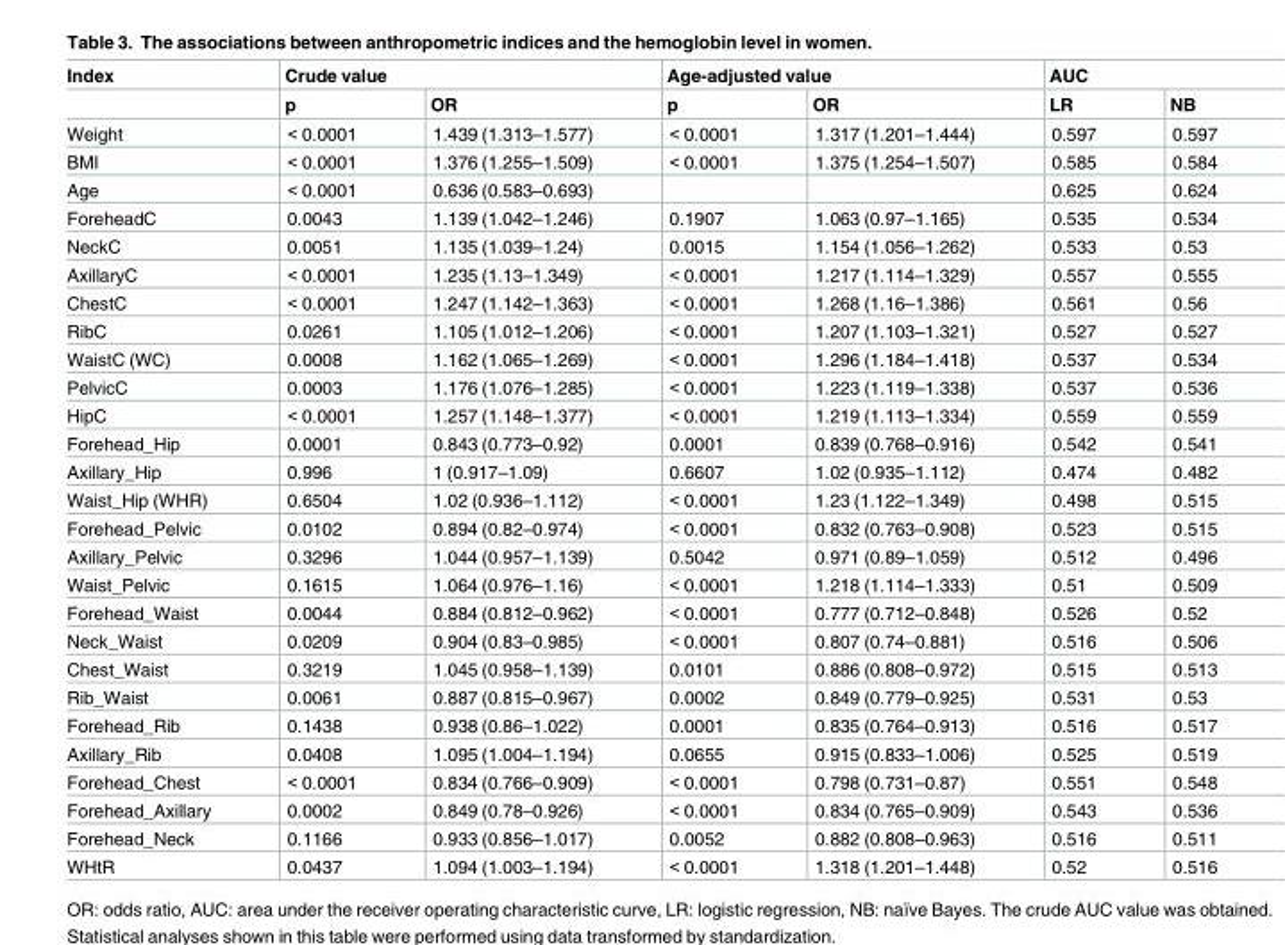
<table><thead><tr><td rowspan="2">Index</td><td colspan="2">Crude value</td><td colspan="2">Age-adjusted value</td><td colspan="2">AUC</td></tr><tr><td>p</td><td>OR</td><td>p</td><td>OR</td><td>LR</td><td>NB</td></tr></thead><tbody><tr><td>Weight</td><td>&lt; 0.0001</td><td>1.439 (1.313–1.577)</td><td>&lt; 0.0001</td><td>1.317 (1.201–1.444)</td><td>0.597</td><td>0.597</td></tr><tr><td>BMI</td><td>&lt; 0.0001</td><td>1.376 (1.255–1.509)</td><td>&lt; 0.0001</td><td>1.375 (1.254–1.507)</td><td>0.585</td><td>0.584</td></tr><tr><td>Age</td><td>&lt; 0.0001</td><td>0.636 (0.583–0.693)</td><td></td><td></td><td>0.625</td><td>0.624</td></tr><tr><td>ForeheadC</td><td>0.0043</td><td>1.139 (1.042–1.246)</td><td>0.1907</td><td>1.063 (0.97–1.165)</td><td>0.535</td><td>0.534</td></tr><tr><td>NeckC</td><td>0.0051</td><td>1.135 (1.039–1.24)</td><td>0.0015</td><td>1.154 (1.056–1.262)</td><td>0.533</td><td>0.53</td></tr><tr><td>AxillaryC</td><td>&lt; 0.0001</td><td>1.235 (1.13–1.349)</td><td>&lt; 0.0001</td><td>1.217 (1.114–1.329)</td><td>0.557</td><td>0.555</td></tr><tr><td>ChestC</td><td>&lt; 0.0001</td><td>1.247 (1.142–1.363)</td><td>&lt; 0.0001</td><td>1.268 (1.16–1.386)</td><td>0.561</td><td>0.56</td></tr><tr><td>RibC</td><td>0.0261</td><td>1.105 (1.012–1.206)</td><td>&lt; 0.0001</td><td>1.207 (1.103–1.321)</td><td>0.527</td><td>0.527</td></tr><tr><td>WaistC (WC)</td><td>0.0008</td><td>1.162 (1.065–1.269)</td><td>&lt; 0.0001</td><td>1.296 (1.184–1.418)</td><td>0.537</td><td>0.534</td></tr><tr><td>PelvicC</td><td>0.0003</td><td>1.176 (1.076–1.285)</td><td>&lt; 0.0001</td><td>1.223 (1.119–1.338)</td><td>0.537</td><td>0.536</td></tr><tr><td>HipC</td><td>&lt; 0.0001</td><td>1.257 (1.148–1.377)</td><td>&lt; 0.0001</td><td>1.219 (1.113–1.334)</td><td>0.559</td><td>0.559</td></tr><tr><td>Forehead_Hip</td><td>0.0001</td><td>0.843 (0.773–0.92)</td><td>0.0001</td><td>0.839 (0.768–0.916)</td><td>0.542</td><td>0.541</td></tr><tr><td>Axillary_Hip</td><td>0.996</td><td>1 (0.917–1.09)</td><td>0.6607</td><td>1.02 (0.935–1.112)</td><td>0.474</td><td>0.482</td></tr><tr><td>Waist_Hip (WHR)</td><td>0.6504</td><td>1.02 (0.936–1.112)</td><td>&lt; 0.0001</td><td>1.23 (1.122–1.349)</td><td>0.498</td><td>0.515</td></tr><tr><td>Forehead_Pelvic</td><td>0.0102</td><td>0.894 (0.82–0.974)</td><td>&lt; 0.0001</td><td>0.832 (0.763–0.908)</td><td>0.523</td><td>0.515</td></tr><tr><td>Axillary_Pelvic</td><td>0.3296</td><td>1.044 (0.957–1.139)</td><td>0.5042</td><td>0.971 (0.89–1.059)</td><td>0.512</td><td>0.496</td></tr><tr><td>Waist_Pelvic</td><td>0.1615</td><td>1.064 (0.976–1.16)</td><td>&lt; 0.0001</td><td>1.218 (1.114–1.333)</td><td>0.51</td><td>0.509</td></tr><tr><td>Forehead_Waist</td><td>0.0044</td><td>0.884 (0.812–0.962)</td><td>&lt; 0.0001</td><td>0.777 (0.712–0.848)</td><td>0.526</td><td>0.52</td></tr><tr><td>Neck_Waist</td><td>0.0209</td><td>0.904 (0.83–0.985)</td><td>&lt; 0.0001</td><td>0.807 (0.74–0.881)</td><td>0.516</td><td>0.506</td></tr><tr><td>Chest_Waist</td><td>0.3219</td><td>1.045 (0.958–1.139)</td><td>0.0101</td><td>0.886 (0.808–0.972)</td><td>0.515</td><td>0.513</td></tr><tr><td>Rib_Waist</td><td>0.0061</td><td>0.887 (0.815–0.967)</td><td>0.0002</td><td>0.849 (0.779–0.925)</td><td>0.531</td><td>0.53</td></tr><tr><td>Forehead_Rib</td><td>0.1438</td><td>0.938 (0.86–1.022)</td><td>0.0001</td><td>0.835 (0.764–0.913)</td><td>0.516</td><td>0.517</td></tr><tr><td>Axillary_Rib</td><td>0.0408</td><td>1.095 (1.004–1.194)</td><td>0.0655</td><td>0.915 (0.833–1.006)</td><td>0.525</td><td>0.519</td></tr><tr><td>Forehead_Chest</td><td>&lt; 0.0001</td><td>0.834 (0.766–0.909)</td><td>&lt; 0.0001</td><td>0.798 (0.731–0.87)</td><td>0.551</td><td>0.548</td></tr><tr><td>Forehead_Axillary</td><td>0.0002</td><td>0.849 (0.78–0.926)</td><td>&lt; 0.0001</td><td>0.834 (0.765–0.909)</td><td>0.543</td><td>0.536</td></tr><tr><td>Forehead_Neck</td><td>0.1166</td><td>0.933 (0.856–1.017)</td><td>0.0052</td><td>0.882 (0.808–0.963)</td><td>0.516</td><td>0.511</td></tr><tr><td>WHtR</td><td>0.0437</td><td>1.094 (1.003–1.194)</td><td>&lt; 0.0001</td><td>1.318 (1.201–1.448)</td><td>0.52</td><td>0.516</td></tr></tbody></table>